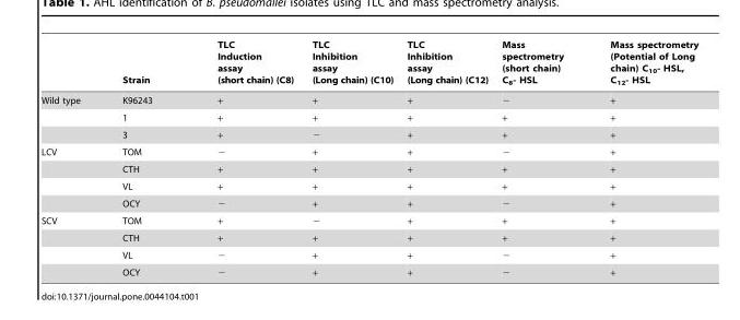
<table><thead><tr><td></td><td>Strain</td><td>TLC Induction assay (short chain) (C8)</td><td>TLC Inhibition assay (Long chain) (C10)</td><td>TLC Inhibition assay (Long chain) (C12)</td><td>Mass spectrometry (short chain) C<sub>8</sub>- HSL</td><td>Mass spectrometry (Potential of Long chain) C<sub>10</sub>- HSL, C<sub>12</sub>- HSL</td></tr></thead><tbody><tr><td rowspan="3">Wild type</td><td>K96243</td><td>+</td><td>+</td><td>+</td><td>−</td><td>+</td></tr><tr><td>1</td><td>+</td><td>+</td><td>+</td><td>+</td><td>+</td></tr><tr><td>3</td><td>+</td><td>−</td><td>+</td><td>+</td><td>+</td></tr><tr><td rowspan="4">LCV</td><td>TOM</td><td>−</td><td>+</td><td>+</td><td>−</td><td>+</td></tr><tr><td>CTH</td><td>+</td><td>+</td><td>+</td><td>+</td><td>+</td></tr><tr><td>VL</td><td>+</td><td>+</td><td>+</td><td>+</td><td>+</td></tr><tr><td>OCY</td><td>−</td><td>+</td><td>+</td><td>−</td><td>+</td></tr><tr><td rowspan="4">SCV</td><td>TOM</td><td>+</td><td>−</td><td>+</td><td>+</td><td>+</td></tr><tr><td>CTH</td><td>+</td><td>+</td><td>+</td><td>+</td><td>+</td></tr><tr><td>VL</td><td>−</td><td>+</td><td>+</td><td>−</td><td>+</td></tr><tr><td>OCY</td><td>−</td><td>+</td><td>+</td><td>−</td><td>+</td></tr></tbody></table>